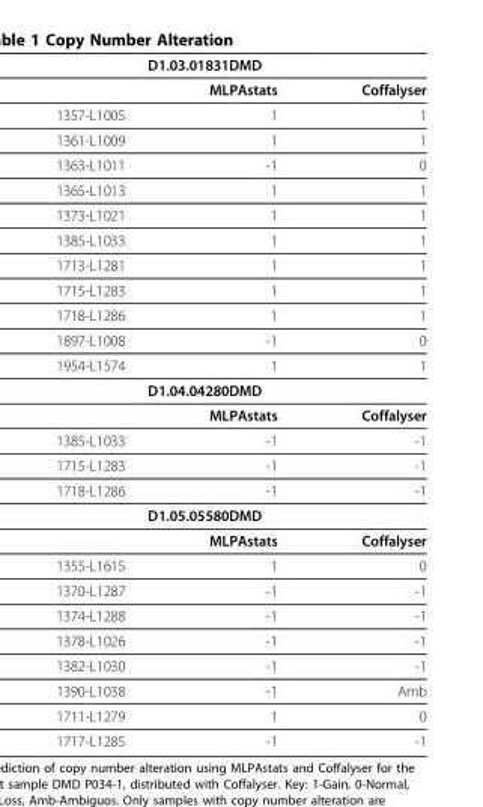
<table><thead><tr><td colspan="3">D1.03.01831DMD</td></tr><tr><td></td><td>MLPAstats</td><td>Coffalyser</td></tr></thead><tbody><tr><td>1357-L1005</td><td>1</td><td>1</td></tr><tr><td>1361-L1009</td><td>1</td><td>1</td></tr><tr><td>1363-L1011</td><td>-1</td><td>0</td></tr><tr><td>1365-L1013</td><td>1</td><td>1</td></tr><tr><td>1373-L1021</td><td>1</td><td>1</td></tr><tr><td>1385-L1033</td><td>1</td><td>1</td></tr><tr><td>1713-L1281</td><td>1</td><td>1</td></tr><tr><td>1715-L1283</td><td>1</td><td>1</td></tr><tr><td>1718-L1286</td><td>1</td><td>1</td></tr><tr><td>1897-L1008</td><td>-1</td><td>0</td></tr><tr><td>1954-L1574</td><td>1</td><td>1</td></tr><tr><td colspan="3">D1.04.04280DMD</td></tr><tr><td></td><td>MLPAstats</td><td>Coffalyser</td></tr><tr><td>1385-L1033</td><td>-1</td><td>-1</td></tr><tr><td>1715-L1283</td><td>-1</td><td>-1</td></tr><tr><td>1718-L1286</td><td>-1</td><td>-1</td></tr><tr><td colspan="3">D1.05.05580DMD</td></tr><tr><td></td><td>MLPAstats</td><td>Coffalyser</td></tr><tr><td>1355-L1615</td><td>1</td><td>0</td></tr><tr><td>1370-L1287</td><td>-1</td><td>-1</td></tr><tr><td>1374-L1288</td><td>-1</td><td>-1</td></tr><tr><td>1378-L1026</td><td>-1</td><td>-1</td></tr><tr><td>1382-L1030</td><td>-1</td><td>-1</td></tr><tr><td>1390-L1038</td><td>-1</td><td>Amb</td></tr><tr><td>1711-L1279</td><td>1</td><td>0</td></tr><tr><td>1717-L1285</td><td>-1</td><td>-1</td></tr></tbody></table>